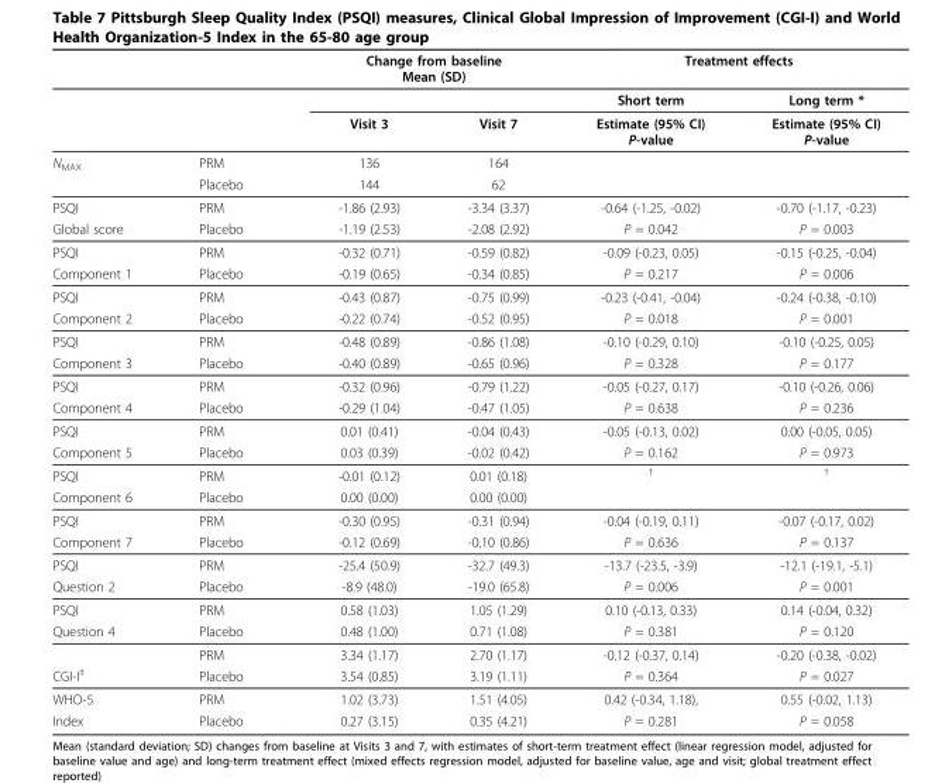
<table><thead><tr><td rowspan="2"></td><td rowspan="2"></td><td colspan="2">Change from baseline Mean (SD)</td><td colspan="2">Treatment effects</td></tr><tr><td></td><td></td><td>Short term</td><td>Long term *</td></tr></thead><tbody><tr><td></td><td></td><td>Visit 3</td><td>Visit 7</td><td>Estimate (95% CI) P-value</td><td>Estimate (95% CI) P-value</td></tr><tr><td rowspan="2">NMAX</td><td>PRM</td><td>136</td><td>164</td><td></td><td></td></tr><tr><td>Placebo</td><td>144</td><td>62</td><td></td><td></td></tr><tr><td>PSQI</td><td>PRM</td><td>-1.86 (2.93)</td><td>-3.34 (3.37)</td><td>-0.64 (-1.25, -0.02)</td><td>-0.70 (-1.17, -0.23)</td></tr><tr><td>Global score</td><td>Placebo</td><td>-1.19 (2.53)</td><td>-2.08 (2.92)</td><td>P = 0.042</td><td>P = 0.003</td></tr><tr><td>PSQI</td><td>PRM</td><td>-0.32 (0.71)</td><td>-0.59 (0.82)</td><td>-0.09 (-0.23, 0.05)</td><td>-0.15 (-0.25, -0.04)</td></tr><tr><td>Component 1</td><td>Placebo</td><td>-0.19 (0.65)</td><td>-0.34 (0.85)</td><td>P = 0.217</td><td>P = 0.006</td></tr><tr><td>PSQI</td><td>PRM</td><td>-0.43 (0.87)</td><td>-0.75 (0.99)</td><td>-0.23 (-0.41, -0.04)</td><td>-0.24 (-0.38, -0.10)</td></tr><tr><td>Component 2</td><td>Placebo</td><td>-0.22 (0.74)</td><td>-0.52 (0.95)</td><td>P = 0.018</td><td>P = 0.001</td></tr><tr><td>PSQI</td><td>PRM</td><td>-0.48 (0.89)</td><td>-0.86 (1.08)</td><td>-0.10 (-0.29, 0.10)</td><td>-0.10 (-0.25, 0.05)</td></tr><tr><td>Component 3</td><td>Placebo</td><td>-0.40 (0.89)</td><td>-0.65 (0.96)</td><td>P = 0.328</td><td>P = 0.177</td></tr><tr><td>PSQI</td><td>PRM</td><td>-0.32 (0.96)</td><td>-0.79 (1.22)</td><td>-0.05 (-0.27, 0.17)</td><td>-0.10 (-0.26, 0.06)</td></tr><tr><td>Component 4</td><td>Placebo</td><td>-0.29 (1.04)</td><td>-0.47 (1.05)</td><td>P = 0.638</td><td>P = 0.236</td></tr><tr><td>PSQI</td><td>PRM</td><td>0.01 (0.41)</td><td>-0.04 (0.43)</td><td>-0.05 (-0.13, 0.02)</td><td>0.00 (-0.05, 0.05)</td></tr><tr><td>Component 5</td><td>Placebo</td><td>0.03 (0.39)</td><td>-0.02 (0.42)</td><td>P = 0.162</td><td>P = 0.973</td></tr><tr><td>PSQI</td><td>PRM</td><td>-0.01 (0.12)</td><td>0.01 (0.18)</td><td>†</td><td>†</td></tr><tr><td>Component 6</td><td>Placebo</td><td>0.00 (0.00)</td><td>0.00 (0.00)</td><td></td><td></td></tr><tr><td>PSQI</td><td>PRM</td><td>-0.30 (0.95)</td><td>-0.31 (0.94)</td><td>-0.04 (-0.19, 0.11)</td><td>-0.07 (-0.17, 0.02)</td></tr><tr><td>Component 7</td><td>Placebo</td><td>-0.12 (0.69)</td><td>-0.10 (0.86)</td><td>P = 0.636</td><td>P = 0.137</td></tr><tr><td>PSQI</td><td>PRM</td><td>-25.4 (50.9)</td><td>-32.7 (49.3)</td><td>-13.7 (-23.5, -3.9)</td><td>-12.1 (-19.1, -5.1)</td></tr><tr><td>Question 2</td><td>Placebo</td><td>-8.9 (48.0)</td><td>-19.0 (65.8)</td><td>P = 0.006</td><td>P = 0.001</td></tr><tr><td>PSQI</td><td>PRM</td><td>0.58 (1.03)</td><td>1.05 (1.29)</td><td>0.10 (-0.13, 0.33)</td><td>0.14 (-0.04, 0.32)</td></tr><tr><td rowspan="2">Question 4</td><td>Placebo</td><td>0.48 (1.00)</td><td>0.71 (1.08)</td><td>P = 0.381</td><td>P = 0.120</td></tr><tr><td>PRM</td><td>3.34 (1.17)</td><td>2.70 (1.17)</td><td>-0.12 (-0.37, 0.14)</td><td>-0.20 (-0.38, -0.02)</td></tr><tr><td>CGI-I‡</td><td>Placebo</td><td>3.54 (0.85)</td><td>3.19 (1.11)</td><td>P = 0.364</td><td>P = 0.027</td></tr><tr><td>WHO-5</td><td>PRM</td><td>1.02 (3.73)</td><td>1.51 (4.05)</td><td>0.42 (-0.34, 1.18),</td><td>0.55 (-0.02, 1.13)</td></tr><tr><td>Index</td><td>Placebo</td><td>0.27 (3.15)</td><td>0.35 (4.21)</td><td>P = 0.281</td><td>P = 0.058</td></tr></tbody></table>